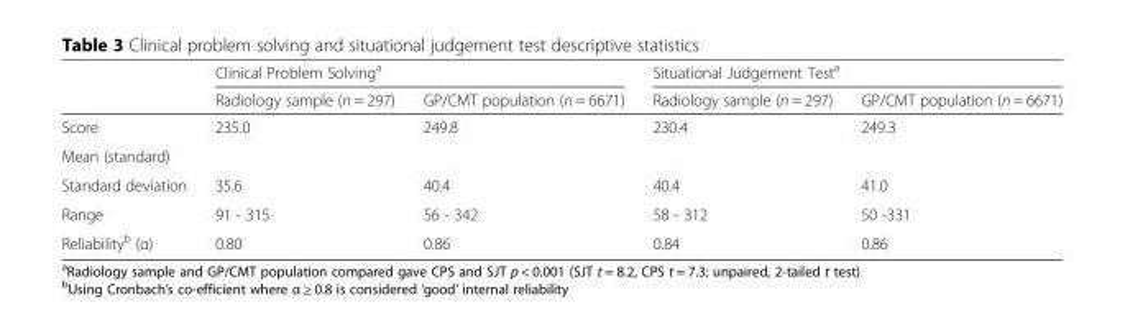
<table><thead><tr><td rowspan="2"></td><td colspan="2">Clinical Problem Solving<sup>a</sup></td><td colspan="2">Situational Judgement Test<sup>a</sup></td></tr><tr><td>Radiology sample (n = 297)</td><td>GP/CMT population (n = 6671)</td><td>Radiology sample (n = 297)</td><td>GP/CMT population (n = 6671)</td></tr></thead><tbody><tr><td>Score</td><td rowspan="2">235.0</td><td rowspan="2">249.8</td><td rowspan="2">230.4</td><td rowspan="2">249.3</td></tr><tr><td>Mean (standard)</td></tr><tr><td>Standard deviation</td><td>35.6</td><td>40.4</td><td>40.4</td><td>41.0</td></tr><tr><td>Range</td><td>91 - 315</td><td>56 - 342</td><td>58 - 312</td><td>50 -331</td></tr><tr><td>Reliability<sup>b</sup> (α)</td><td>0.80</td><td>0.86</td><td>0.84</td><td>0.86</td></tr></tbody></table>